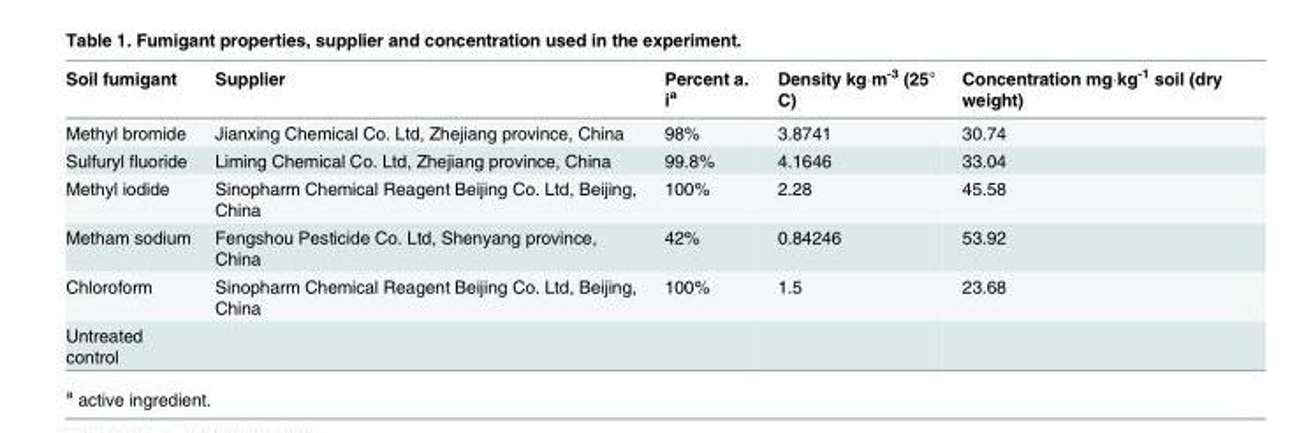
<table><thead><tr><td>Soil fumigant</td><td>Supplier</td><td>Percent a. i<sup>a</sup></td><td>Density kg·m<sup>-3</sup> (25° C)</td><td>Concentration mg·kg<sup>-1</sup> soil (dry weight)</td></tr></thead><tbody><tr><td>Methyl bromide</td><td>Jianxing Chemical Co. Ltd, Zhejiang province, China</td><td>98%</td><td>3.8741</td><td>30.74</td></tr><tr><td>Sulfuryl fluoride</td><td>Liming Chemical Co. Ltd, Zhejiang province, China</td><td>99.8%</td><td>4.1646</td><td>33.04</td></tr><tr><td>Methyl iodide</td><td>Sinopharm Chemical Reagent Beijing Co. Ltd, Beijing, China</td><td>100%</td><td>2.28</td><td>45.58</td></tr><tr><td>Metham sodium</td><td>Fengshou Pesticide Co. Ltd, Shenyang province, China</td><td>42%</td><td>0.84246</td><td>53.92</td></tr><tr><td>Chloroform</td><td>Sinopharm Chemical Reagent Beijing Co. Ltd, Beijing, China</td><td>100%</td><td>1.5</td><td>23.68</td></tr><tr><td>Untreated control</td><td></td><td></td><td></td><td></td></tr></tbody></table>